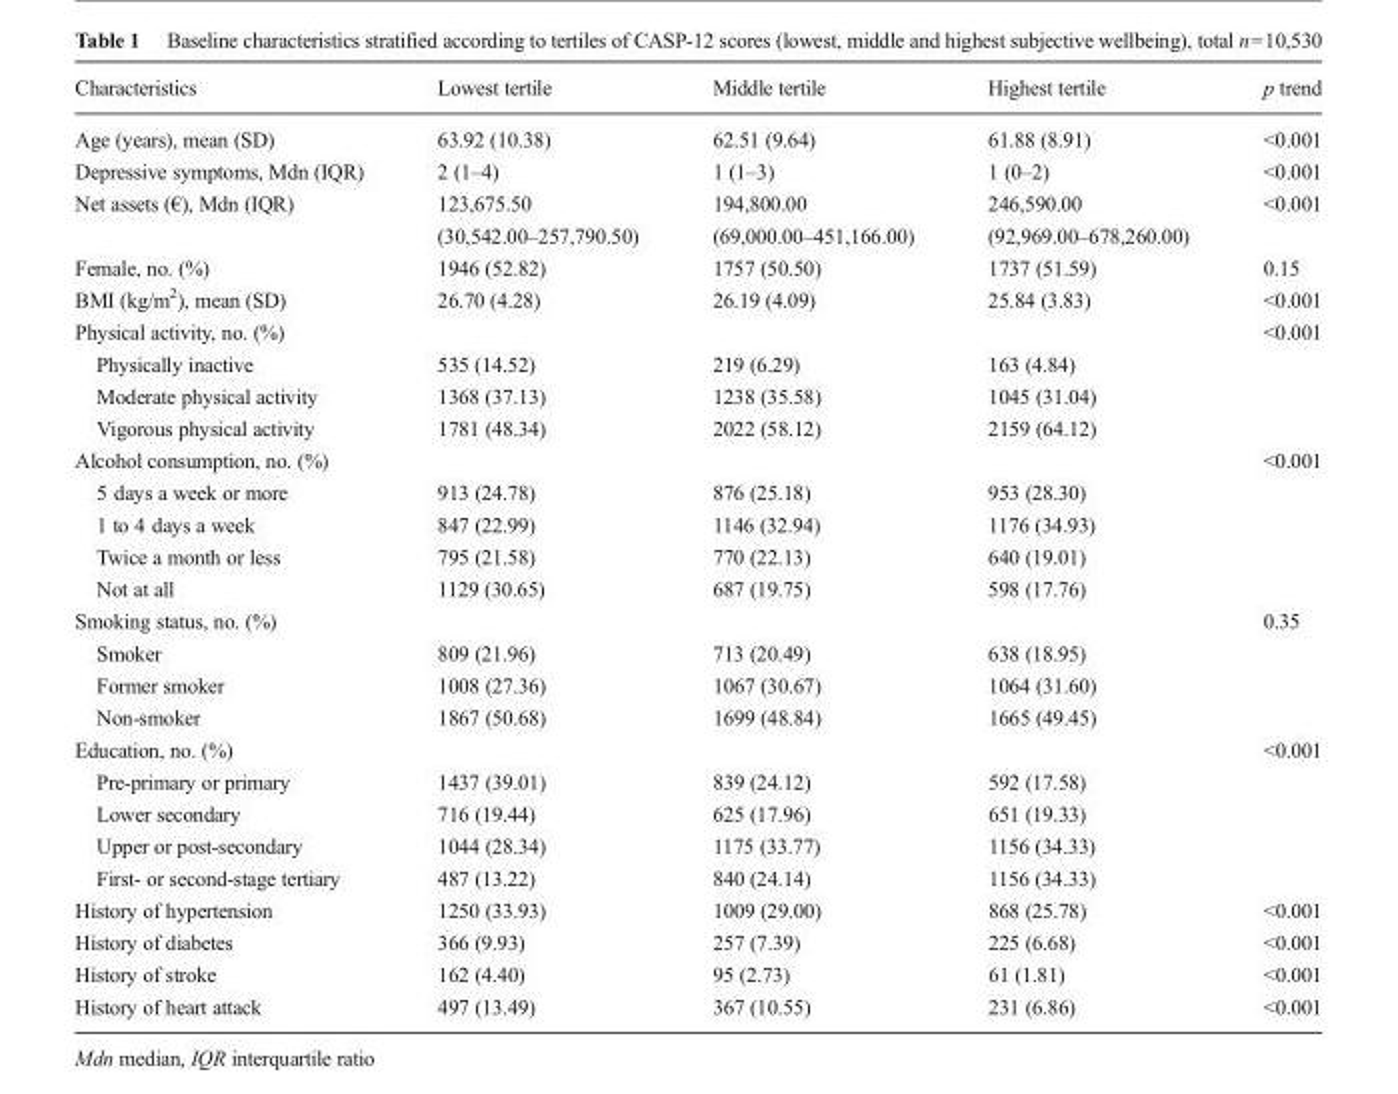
<table><thead><tr><td>Characteristics</td><td>Lowest tertile</td><td>Middle tertile</td><td>Highest tertile</td><td>p trend</td></tr></thead><tbody><tr><td>Age (years), mean (SD)</td><td>63.92 (10.38)</td><td>62.51 (9.64)</td><td>61.88 (8.91)</td><td>&lt;0.001</td></tr><tr><td>Depressive symptoms, Mdn (IQR)</td><td>2 (1–4)</td><td>1 (1–3)</td><td>1 (0–2)</td><td>&lt;0.001</td></tr><tr><td rowspan="2">Net assets (€), Mdn (IQR)</td><td>123,675.50</td><td>194,800.00</td><td>246,590.00</td><td>&lt;0.001</td></tr><tr><td>(30,542.00–257,790.50)</td><td>(69,000.00–451,166.00)</td><td>(92,969.00–678,260.00)</td><td></td></tr><tr><td>Female, no. (%)</td><td>1946 (52.82)</td><td>1757 (50.50)</td><td>1737 (51.59)</td><td>0.15</td></tr><tr><td>BMI (kg/m<sup>2</sup>), mean (SD)</td><td>26.70 (4.28)</td><td>26.19 (4.09)</td><td>25.84 (3.83)</td><td>&lt;0.001</td></tr><tr><td>Physical activity, no. (%)</td><td></td><td></td><td></td><td>&lt;0.001</td></tr><tr><td>Physically inactive</td><td>535 (14.52)</td><td>219 (6.29)</td><td>163 (4.84)</td><td></td></tr><tr><td>Moderate physical activity</td><td>1368 (37.13)</td><td>1238 (35.58)</td><td>1045 (31.04)</td><td></td></tr><tr><td>Vigorous physical activity</td><td>1781 (48.34)</td><td>2022 (58.12)</td><td>2159 (64.12)</td><td></td></tr><tr><td>Alcohol consumption, no. (%)</td><td></td><td></td><td></td><td>&lt;0.001</td></tr><tr><td>5 days a week or more</td><td>913 (24.78)</td><td>876 (25.18)</td><td>953 (28.30)</td><td></td></tr><tr><td>1 to 4 days a week</td><td>847 (22.99)</td><td>1146 (32.94)</td><td>1176 (34.93)</td><td></td></tr><tr><td>Twice a month or less</td><td>795 (21.58)</td><td>770 (22.13)</td><td>640 (19.01)</td><td></td></tr><tr><td>Not at all</td><td>1129 (30.65)</td><td>687 (19.75)</td><td>598 (17.76)</td><td></td></tr><tr><td>Smoking status, no. (%)</td><td></td><td></td><td></td><td>0.35</td></tr><tr><td>Smoker</td><td>809 (21.96)</td><td>713 (20.49)</td><td>638 (18.95)</td><td></td></tr><tr><td>Former smoker</td><td>1008 (27.36)</td><td>1067 (30.67)</td><td>1064 (31.60)</td><td></td></tr><tr><td>Non-smoker</td><td>1867 (50.68)</td><td>1699 (48.84)</td><td>1665 (49.45)</td><td></td></tr><tr><td>Education, no. (%)</td><td></td><td></td><td></td><td>&lt;0.001</td></tr><tr><td>Pre-primary or primary</td><td>1437 (39.01)</td><td>839 (24.12)</td><td>592 (17.58)</td><td></td></tr><tr><td>Lower secondary</td><td>716 (19.44)</td><td>625 (17.96)</td><td>651 (19.33)</td><td></td></tr><tr><td>Upper or post-secondary</td><td>1044 (28.34)</td><td>1175 (33.77)</td><td>1156 (34.33)</td><td></td></tr><tr><td>First- or second-stage tertiary</td><td>487 (13.22)</td><td>840 (24.14)</td><td>1156 (34.33)</td><td></td></tr><tr><td>History of hypertension</td><td>1250 (33.93)</td><td>1009 (29.00)</td><td>868 (25.78)</td><td>&lt;0.001</td></tr><tr><td>History of diabetes</td><td>366 (9.93)</td><td>257 (7.39)</td><td>225 (6.68)</td><td>&lt;0.001</td></tr><tr><td>History of stroke</td><td>162 (4.40)</td><td>95 (2.73)</td><td>61 (1.81)</td><td>&lt;0.001</td></tr><tr><td>History of heart attack</td><td>497 (13.49)</td><td>367 (10.55)</td><td>231 (6.86)</td><td>&lt;0.001</td></tr></tbody></table>